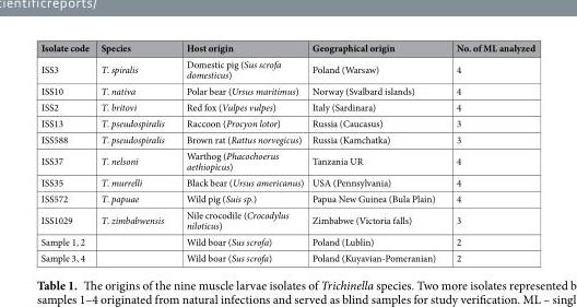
<table><thead><tr><td>Isolate code</td><td>Species</td><td>Host origin</td><td>Geographical origin</td><td>No. of ML analyzed</td></tr></thead><tbody><tr><td>ISS3</td><td>T. spiralis</td><td>Domestic pig (Sus scrofa domesticus)</td><td>Poland (Warsaw)</td><td>4</td></tr><tr><td>ISS10</td><td>T. nativa</td><td>Polar bear (Ursus maritimus)</td><td>Norway (Svalbard islands)</td><td>4</td></tr><tr><td>ISS2</td><td>T. britovi</td><td>Red fox (Vulpes vulpes)</td><td>Italy (Sardinara)</td><td>4</td></tr><tr><td>ISS13</td><td>T. pseudospiralis</td><td>Raccoon (Procyon lotor)</td><td>Russia (Caucasus)</td><td>3</td></tr><tr><td>ISS588</td><td>T. pseudospiralis</td><td>Brown rat (Rattus norvegicus)</td><td>Russia (Kamchatka)</td><td>3</td></tr><tr><td>ISS37</td><td>T. nelsoni</td><td>Warthog (Phacochoerus aethiopicus)</td><td>Tanzania UR</td><td>4</td></tr><tr><td>ISS35</td><td>T. murrelli</td><td>Black bear (Ursus americanus)</td><td>USA (Pennsylvania)</td><td>4</td></tr><tr><td>ISS572</td><td>T. papuae</td><td>Wild pig (Suis sp.)</td><td>Papua New Guinea (Bula Plain)</td><td>4</td></tr><tr><td>ISS1029</td><td>T. zimbabwensis</td><td>Nile crocodile (Crocodylus niloticus)</td><td>Zimbabwe (Victoria falls)</td><td>3</td></tr><tr><td>Sample 1, 2</td><td></td><td>Wild boar (Sus scrofa)</td><td>Poland (Lublin)</td><td>2</td></tr><tr><td>Sample 3, 4</td><td></td><td>Wild boar (Sus scrofa)</td><td>Poland (Kuyavian-Pomeranian)</td><td>2</td></tr></tbody></table>